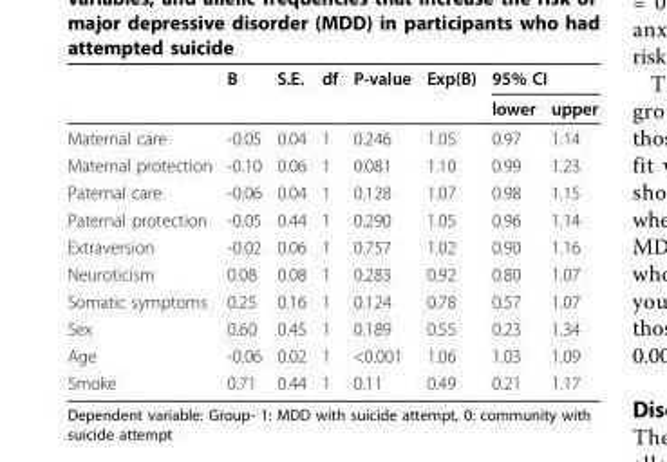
<table><thead><tr><td rowspan="2"></td><td rowspan="2">B</td><td rowspan="2">S.E.</td><td rowspan="2">df</td><td rowspan="2">P-value</td><td rowspan="2">Exp(B)</td><td colspan="2">95% CI</td></tr><tr><td>lower</td><td>upper</td></tr></thead><tbody><tr><td>Maternal care</td><td>-0.05</td><td>0.04</td><td>1</td><td>0.246</td><td>1.05</td><td>0.97</td><td>1.14</td></tr><tr><td>Maternal protection</td><td>-0.10</td><td>0.06</td><td>1</td><td>0.081</td><td>1.10</td><td>0.99</td><td>1.23</td></tr><tr><td>Paternal care</td><td>-0.06</td><td>0.04</td><td>1</td><td>0.128</td><td>1.07</td><td>0.98</td><td>1.15</td></tr><tr><td>Paternal protection</td><td>-0.05</td><td>0.44</td><td>1</td><td>0.290</td><td>1.05</td><td>0.96</td><td>1.14</td></tr><tr><td>Extraversion</td><td>-0.02</td><td>0.06</td><td>1</td><td>0.757</td><td>1.02</td><td>0.90</td><td>1.16</td></tr><tr><td>Neuroticism</td><td>0.08</td><td>0.08</td><td>1</td><td>0.283</td><td>0.92</td><td>0.80</td><td>1.07</td></tr><tr><td>Somatic symptoms</td><td>0.25</td><td>0.16</td><td>1</td><td>0.124</td><td>0.78</td><td>0.57</td><td>1.07</td></tr><tr><td>Sex</td><td>0.60</td><td>0.45</td><td>1</td><td>0.189</td><td>0.55</td><td>0.23</td><td>1.34</td></tr><tr><td>Age</td><td>-0.06</td><td>0.02</td><td>1</td><td>&lt;0.001</td><td>1.06</td><td>1.03</td><td>1.09</td></tr><tr><td>Smoke</td><td>0.71</td><td>0.44</td><td>1</td><td>0.11</td><td>0.49</td><td>0.21</td><td>1.17</td></tr></tbody></table>